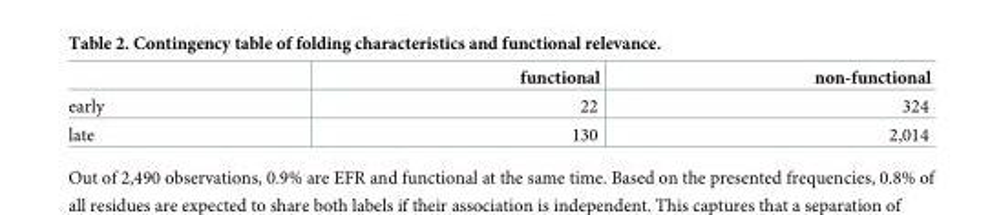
<table><thead><tr><td></td><td>functional</td><td>non-functional</td></tr></thead><tbody><tr><td>early</td><td>22</td><td>324</td></tr><tr><td>late</td><td>130</td><td>2,014</td></tr></tbody></table>